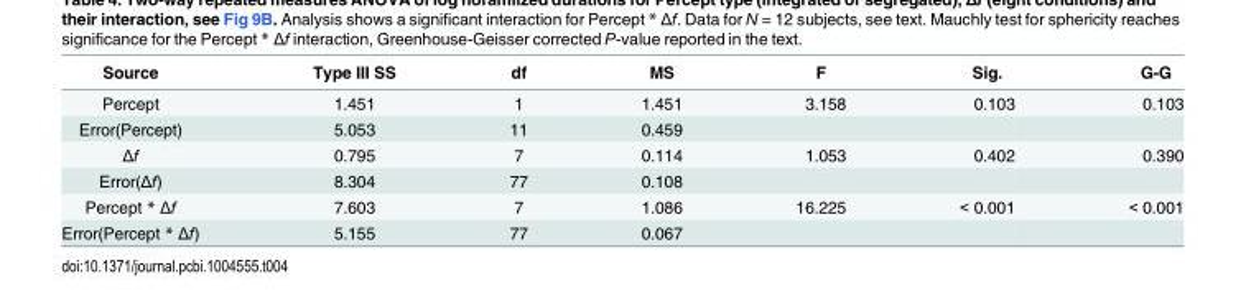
<table><thead><tr><td>Source</td><td>Type III SS</td><td>df</td><td>MS</td><td>F</td><td>Sig.</td><td>G-G</td></tr></thead><tbody><tr><td>Percept</td><td>1.451</td><td>1</td><td>1.451</td><td>3.158</td><td>0.103</td><td>0.103</td></tr><tr><td>Error(Percept)</td><td>5.053</td><td>11</td><td>0.459</td><td></td><td></td><td></td></tr><tr><td>Δf</td><td>0.795</td><td>7</td><td>0.114</td><td>1.053</td><td>0.402</td><td>0.390</td></tr><tr><td>Error(Δf)</td><td>8.304</td><td>77</td><td>0.108</td><td></td><td></td><td></td></tr><tr><td>Percept * Δf</td><td>7.603</td><td>7</td><td>1.086</td><td>16.225</td><td>&lt; 0.001</td><td>&lt; 0.001</td></tr><tr><td>Error(Percept * Δf)</td><td>5.155</td><td>77</td><td>0.067</td><td></td><td></td><td></td></tr></tbody></table>